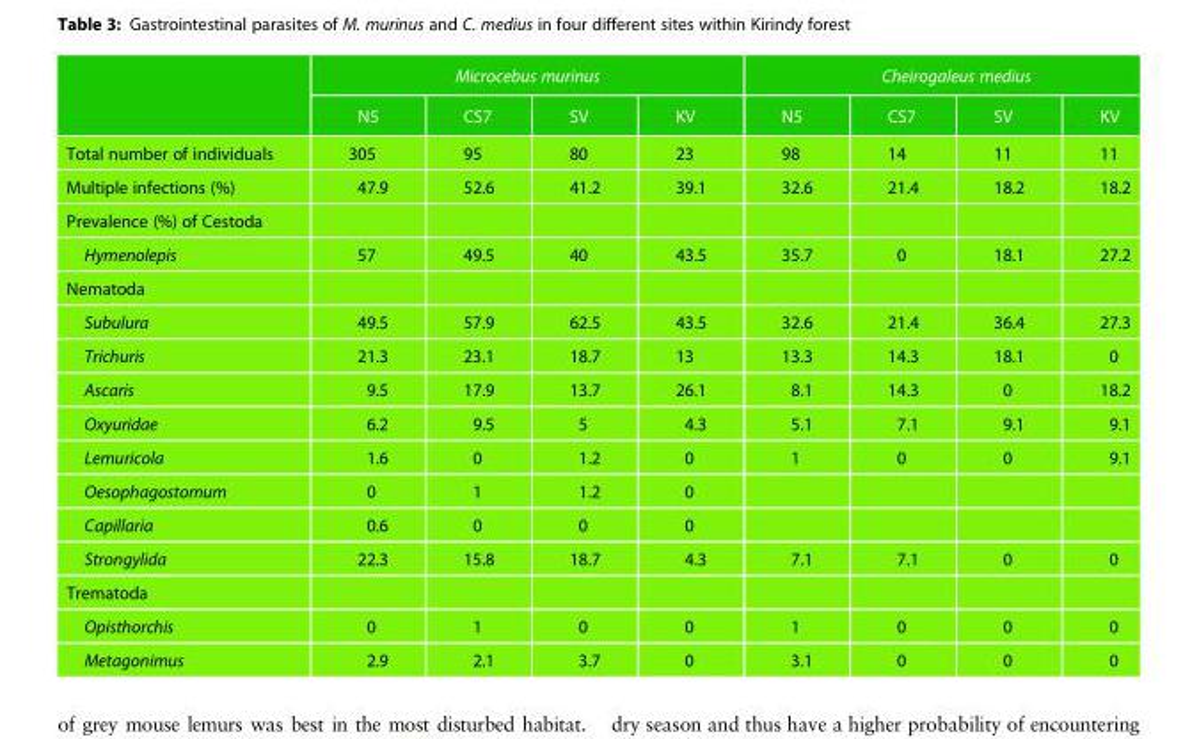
<table><thead><tr><td rowspan="2"></td><td colspan="4">Microcebus murinus</td><td colspan="4">Cheirogaleus medius</td></tr><tr><td>N5</td><td>CS7</td><td>SV</td><td>KV</td><td>N5</td><td>CS7</td><td>SV</td><td>KV</td></tr></thead><tbody><tr><td>Total number of individuals</td><td>305</td><td>95</td><td>80</td><td>23</td><td>98</td><td>14</td><td>11</td><td>11</td></tr><tr><td>Multiple infections (%)</td><td>47.9</td><td>52.6</td><td>41.2</td><td>39.1</td><td>32.6</td><td>21.4</td><td>18.2</td><td>18.2</td></tr><tr><td colspan="9">Prevalence (%) of Cestoda</td></tr><tr><td>Hymenolepis</td><td>57</td><td>49.5</td><td>40</td><td>43.5</td><td>35.7</td><td>0</td><td>18.1</td><td>27.2</td></tr><tr><td colspan="9">Nematoda</td></tr><tr><td>Subulura</td><td>49.5</td><td>57.9</td><td>62.5</td><td>43.5</td><td>32.6</td><td>21.4</td><td>36.4</td><td>27.3</td></tr><tr><td>Trichuris</td><td>21.3</td><td>23.1</td><td>18.7</td><td>13</td><td>13.3</td><td>14.3</td><td>18.1</td><td>0</td></tr><tr><td>Ascaris</td><td>9.5</td><td>17.9</td><td>13.7</td><td>26.1</td><td>8.1</td><td>14.3</td><td>0</td><td>18.2</td></tr><tr><td>Oxyuridae</td><td>6.2</td><td>9.5</td><td>5</td><td>4.3</td><td>5.1</td><td>7.1</td><td>9.1</td><td>9.1</td></tr><tr><td>Lemuricola</td><td>1.6</td><td>0</td><td>1.2</td><td>0</td><td>1</td><td>0</td><td>0</td><td>9.1</td></tr><tr><td>Oesophagostomum</td><td>0</td><td>1</td><td>1.2</td><td>0</td><td></td><td></td><td></td><td></td></tr><tr><td>Capillaria</td><td>0.6</td><td>0</td><td>0</td><td>0</td><td></td><td></td><td></td><td></td></tr><tr><td>Strongylida</td><td>22.3</td><td>15.8</td><td>18.7</td><td>4.3</td><td>7.1</td><td>7.1</td><td>0</td><td>0</td></tr><tr><td colspan="9">Trematoda</td></tr><tr><td>Opisthorchis</td><td>0</td><td>1</td><td>0</td><td>0</td><td>1</td><td>0</td><td>0</td><td>0</td></tr><tr><td>Metagonimus</td><td>2.9</td><td>2.1</td><td>3.7</td><td>0</td><td>3.1</td><td>0</td><td>0</td><td>0</td></tr></tbody></table>